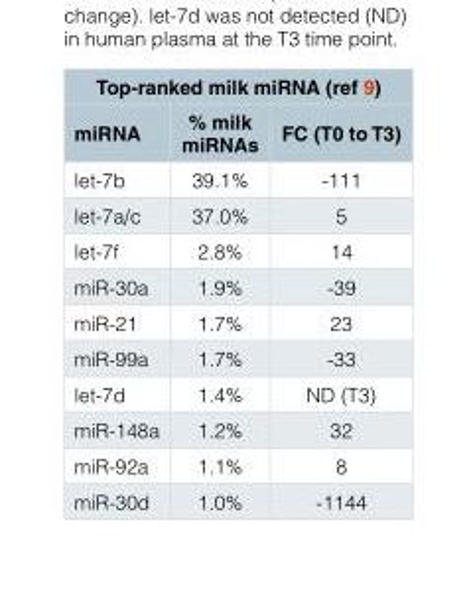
<table><thead><tr><td colspan="3">Top-ranked milk miRNA (ref 9)</td></tr><tr><td>miRNA</td><td>% milk miRNAs</td><td>FC (T0 to T3)</td></tr></thead><tbody><tr><td>let-7b</td><td>39.1%</td><td>-111</td></tr><tr><td>let-7a/c</td><td>37.0%</td><td>5</td></tr><tr><td>let-7f</td><td>2.8%</td><td>14</td></tr><tr><td>miR-30a</td><td>1.9%</td><td>-39</td></tr><tr><td>miR-21</td><td>1.7%</td><td>23</td></tr><tr><td>miR-99a</td><td>1.7%</td><td>-33</td></tr><tr><td>let-7d</td><td>1.4%</td><td>ND (T3)</td></tr><tr><td>miR-148a</td><td>1.2%</td><td>32</td></tr><tr><td>miR-92a</td><td>1.1%</td><td>8</td></tr><tr><td>miR-30d</td><td>1.0%</td><td>-1144</td></tr></tbody></table>